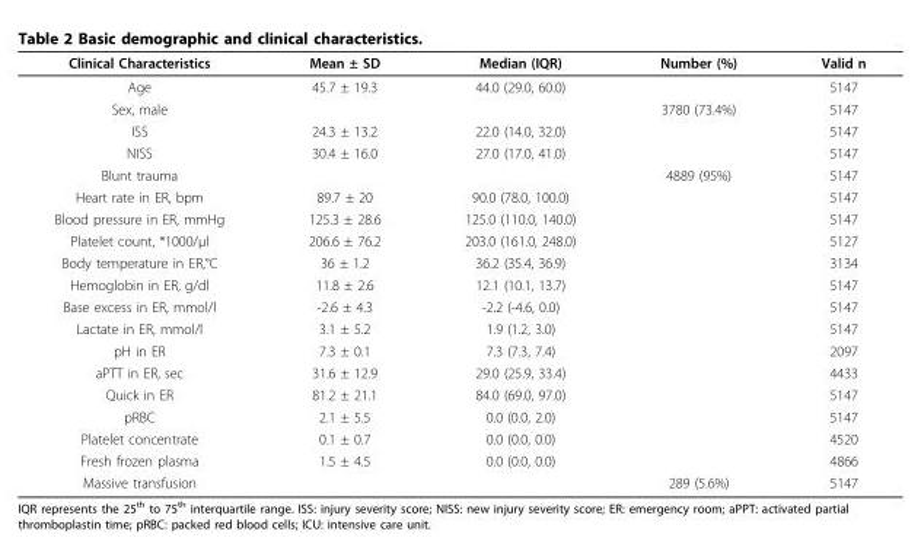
<table><thead><tr><td>Clinical Characteristics</td><td>Mean ± SD</td><td>Median (IQR)</td><td>Number (%)</td><td>Valid n</td></tr></thead><tbody><tr><td>Age</td><td>45.7 ± 19.3</td><td>44.0 (29.0, 60.0)</td><td></td><td>5147</td></tr><tr><td>Sex, male</td><td></td><td></td><td>3780 (73.4%)</td><td>5147</td></tr><tr><td>ISS</td><td>24.3 ± 13.2</td><td>22.0 (14.0, 32.0)</td><td></td><td>5147</td></tr><tr><td>NISS</td><td>30.4 ± 16.0</td><td>27.0 (17.0, 41.0)</td><td></td><td>5147</td></tr><tr><td>Blunt trauma</td><td></td><td></td><td>4889 (95%)</td><td>5147</td></tr><tr><td>Heart rate in ER, bpm</td><td>89.7 ± 20</td><td>90.0 (78.0, 100.0)</td><td></td><td>5147</td></tr><tr><td>Blood pressure in ER, mmHg</td><td>125.3 ± 28.6</td><td>125.0 (110.0, 140.0)</td><td></td><td>5147</td></tr><tr><td>Platelet count, *1000/μl</td><td>206.6 ± 76.2</td><td>203.0 (161.0, 248.0)</td><td></td><td>5127</td></tr><tr><td>Body temperature in ER,°C</td><td>36 ± 1.2</td><td>36.2 (35.4, 36.9)</td><td></td><td>3134</td></tr><tr><td>Hemoglobin in ER, g/dl</td><td>11.8 ± 2.6</td><td>12.1 (10.1, 13.7)</td><td></td><td>5147</td></tr><tr><td>Base excess in ER, mmol/l</td><td>-2.6 ± 4.3</td><td>-2.2 (-4.6, 0.0)</td><td></td><td>5147</td></tr><tr><td>Lactate in ER, mmol/l</td><td>3.1 ± 5.2</td><td>1.9 (1.2, 3.0)</td><td></td><td>5147</td></tr><tr><td>pH in ER</td><td>7.3 ± 0.1</td><td>7.3 (7.3, 7.4)</td><td></td><td>2097</td></tr><tr><td>aPTT in ER, sec</td><td>31.6 ± 12.9</td><td>29.0 (25.9, 33.4)</td><td></td><td>4433</td></tr><tr><td>Quick in ER</td><td>81.2 ± 21.1</td><td>84.0 (69.0, 97.0)</td><td></td><td>5147</td></tr><tr><td>pRBC</td><td>2.1 ± 5.5</td><td>0.0 (0.0, 2.0)</td><td></td><td>5147</td></tr><tr><td>Platelet concentrate</td><td>0.1 ± 0.7</td><td>0.0 (0.0, 0.0)</td><td></td><td>4520</td></tr><tr><td>Fresh frozen plasma</td><td>1.5 ± 4.5</td><td>0.0 (0.0, 0.0)</td><td></td><td>4866</td></tr><tr><td>Massive transfusion</td><td></td><td></td><td>289 (5.6%)</td><td>5147</td></tr></tbody></table>